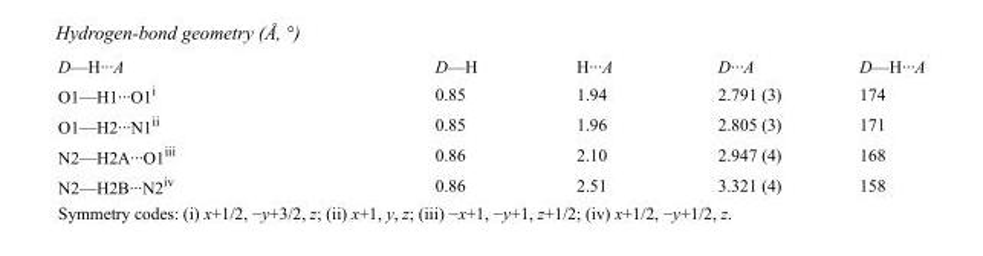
<table><tbody><tr><td>D—H···A</td><td>D—H</td><td>H···A</td><td>D···A</td><td>D—H···A</td></tr><tr><td>O1—H1···O1<sup>i</sup></td><td>0.85</td><td>1.94</td><td>2.791 (3)</td><td>174</td></tr><tr><td>O1—H2···N1<sup>ii</sup></td><td>0.85</td><td>1.96</td><td>2.805 (3)</td><td>171</td></tr><tr><td>N2—H2A···O1<sup>iii</sup></td><td>0.86</td><td>2.10</td><td>2.947 (4)</td><td>168</td></tr><tr><td>N2—H2B···N2<sup>iv</sup></td><td>0.86</td><td>2.51</td><td>3.321 (4)</td><td>158</td></tr></tbody></table>